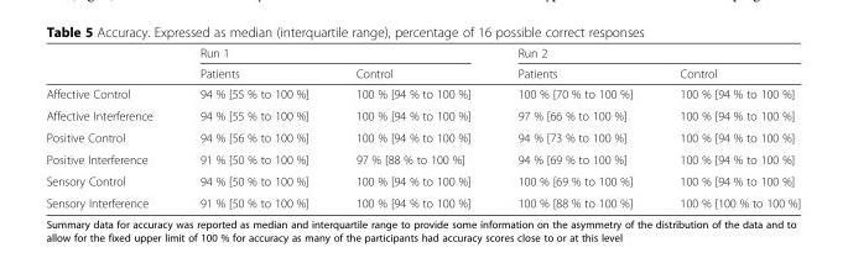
<table><thead><tr><td rowspan="2"></td><td colspan="2">Run 1</td><td colspan="2">Run 2</td></tr><tr><td>Patients</td><td>Control</td><td>Patients</td><td>Control</td></tr></thead><tbody><tr><td>Affective Control</td><td>94 % [55 % to 100 %]</td><td>100 % [94 % to 100 %]</td><td>100 % [70 % to 100 %]</td><td>100 % [94 % to 100 %]</td></tr><tr><td>Affective Interference</td><td>94 % [55 % to 100 %]</td><td>100 % [94 % to 100 %]</td><td>97 % [66 % to 100 %]</td><td>100 % [94 % to 100 %]</td></tr><tr><td>Positive Control</td><td>94 % [56 % to 100 %]</td><td>100 % [94 % to 100 %]</td><td>94 % [73 % to 100 %]</td><td>100 % [94 % to 100 %]</td></tr><tr><td>Positive Interference</td><td>91 % [50 % to 100 %]</td><td>97 % [88 % to 100 %]</td><td>94 % [69 % to 100 %]</td><td>100 % [94 % to 100 %]</td></tr><tr><td>Sensory Control</td><td>94 % [50 % to 100 %]</td><td>100 % [94 % to 100 %]</td><td>100 % [69 % to 100 %]</td><td>100 % [94 % to 100 %]</td></tr><tr><td>Sensory Interference</td><td>91 % [50 % to 100 %]</td><td>100 % [94 % to 100 %]</td><td>100 % [88 % to 100 %]</td><td>100 % [100 % to 100 %]</td></tr></tbody></table>